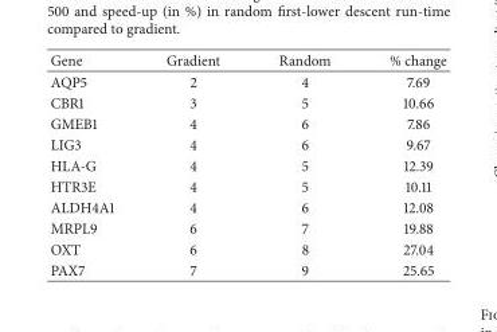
<table><thead><tr><td>Gene</td><td>Gradient</td><td>Random</td><td>% change</td></tr></thead><tbody><tr><td>AQP5</td><td>2</td><td>4</td><td>7.69</td></tr><tr><td>CBR1</td><td>3</td><td>5</td><td>10.66</td></tr><tr><td>GMEB1</td><td>4</td><td>6</td><td>7.86</td></tr><tr><td>LIG3</td><td>4</td><td>6</td><td>9.67</td></tr><tr><td>HLA-G</td><td>4</td><td>5</td><td>12.39</td></tr><tr><td>HTR3E</td><td>4</td><td>5</td><td>10.11</td></tr><tr><td>ALDH4A1</td><td>4</td><td>6</td><td>12.08</td></tr><tr><td>MRPL9</td><td>6</td><td>7</td><td>19.88</td></tr><tr><td>OXT</td><td>6</td><td>8</td><td>27.04</td></tr><tr><td>PAX7</td><td>7</td><td>9</td><td>25.65</td></tr></tbody></table>